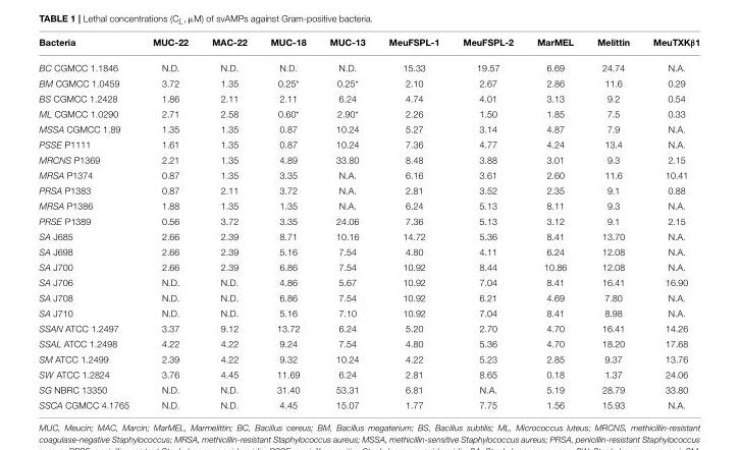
<table><thead><tr><td>Bacteria</td><td>MUC-22</td><td>MAC-22</td><td>MUC-18</td><td>MUC-13</td><td>MeuFSPL-1</td><td>MeuFSPL-2</td><td>MarMEL</td><td>Melittin</td><td>MeuTXKβ1</td></tr></thead><tbody><tr><td>BC CGMCC 1.1846</td><td>N.D.</td><td>N.D.</td><td>N.D.</td><td>N.D.</td><td>15.33</td><td>19.57</td><td>6.69</td><td>24.74</td><td>N.A.</td></tr><tr><td>BM CGMCC 1.0459</td><td>3.72</td><td>1.35</td><td>0.25*</td><td>0.25*</td><td>2.10</td><td>2.67</td><td>2.86</td><td>11.6</td><td>0.29</td></tr><tr><td>BS CGMCC 1.2428</td><td>1.86</td><td>2.11</td><td>2.11</td><td>6.24</td><td>4.74</td><td>4.01</td><td>3.13</td><td>9.2</td><td>0.54</td></tr><tr><td>ML CGMCC 1.0290</td><td>2.71</td><td>2.58</td><td>0.60*</td><td>2.90*</td><td>2.26</td><td>1.50</td><td>1.85</td><td>7.5</td><td>0.33</td></tr><tr><td>MSSA CGMCC 1.89</td><td>1.35</td><td>1.35</td><td>0.87</td><td>10.24</td><td>5.27</td><td>3.14</td><td>4.87</td><td>7.9</td><td>N.A.</td></tr><tr><td>PSSE P1111</td><td>1.61</td><td>1.35</td><td>0.87</td><td>10.24</td><td>7.36</td><td>4.77</td><td>4.24</td><td>13.4</td><td>N.A.</td></tr><tr><td>MRCNS P1369</td><td>2.21</td><td>1.35</td><td>4.89</td><td>33.80</td><td>8.48</td><td>3.88</td><td>3.01</td><td>9.3</td><td>2.15</td></tr><tr><td>MRSA P1374</td><td>0.87</td><td>1.35</td><td>3.35</td><td>N.A.</td><td>6.16</td><td>3.61</td><td>2.60</td><td>11.6</td><td>10.41</td></tr><tr><td>PRSA P1383</td><td>0.87</td><td>2.11</td><td>3.72</td><td>N.A.</td><td>2.81</td><td>3.52</td><td>2.35</td><td>9.1</td><td>0.88</td></tr><tr><td>MRSA P1386</td><td>1.88</td><td>1.35</td><td>1.35</td><td>N.A.</td><td>6.24</td><td>5.13</td><td>8.11</td><td>9.3</td><td>N.A.</td></tr><tr><td>PRSE P1389</td><td>0.56</td><td>3.72</td><td>3.35</td><td>24.06</td><td>7.36</td><td>5.13</td><td>3.12</td><td>9.1</td><td>2.15</td></tr><tr><td>SA J685</td><td>2.66</td><td>2.39</td><td>8.71</td><td>10.16</td><td>14.72</td><td>5.36</td><td>8.41</td><td>13.70</td><td>N.A.</td></tr><tr><td>SA J698</td><td>2.66</td><td>2.39</td><td>5.16</td><td>7.54</td><td>4.80</td><td>4.11</td><td>6.24</td><td>12.08</td><td>N.A.</td></tr><tr><td>SA J700</td><td>2.66</td><td>2.39</td><td>6.86</td><td>7.54</td><td>10.92</td><td>8.44</td><td>10.86</td><td>12.08</td><td>N.A.</td></tr><tr><td>SA J706</td><td>N.D.</td><td>N.D.</td><td>4.86</td><td>5.67</td><td>10.92</td><td>7.04</td><td>8.41</td><td>16.41</td><td>16.90</td></tr><tr><td>SA J708</td><td>N.D.</td><td>N.D.</td><td>6.86</td><td>7.54</td><td>10.92</td><td>6.21</td><td>4.69</td><td>7.80</td><td>N.A.</td></tr><tr><td>SA J710</td><td>N.D.</td><td>N.D.</td><td>5.16</td><td>7.10</td><td>10.92</td><td>7.04</td><td>8.41</td><td>8.98</td><td>N.A.</td></tr><tr><td>SSAN ATCC 1.2497</td><td>3.37</td><td>9.12</td><td>13.72</td><td>6.24</td><td>5.20</td><td>2.70</td><td>4.70</td><td>16.41</td><td>14.26</td></tr><tr><td>SSAL ATCC 1.2498</td><td>4.22</td><td>4.22</td><td>9.24</td><td>7.54</td><td>4.80</td><td>5.36</td><td>4.70</td><td>18.20</td><td>17.68</td></tr><tr><td>SM ATCC 1.2499</td><td>2.39</td><td>4.22</td><td>9.32</td><td>10.24</td><td>4.22</td><td>5.23</td><td>2.85</td><td>9.37</td><td>13.76</td></tr><tr><td>SW ATCC 1.2824</td><td>3.76</td><td>4.45</td><td>11.69</td><td>6.24</td><td>2.81</td><td>8.65</td><td>0.18</td><td>1.37</td><td>24.06</td></tr><tr><td>SG NBRC 13350</td><td>N.D.</td><td>N.D.</td><td>31.40</td><td>53.31</td><td>6.81</td><td>N.A.</td><td>5.19</td><td>28.79</td><td>33.80</td></tr><tr><td>SSCA CGMCC 4.1765</td><td>N.D.</td><td>N.D.</td><td>4.45</td><td>15.07</td><td>1.77</td><td>7.75</td><td>1.56</td><td>15.93</td><td>N.A.</td></tr></tbody></table>